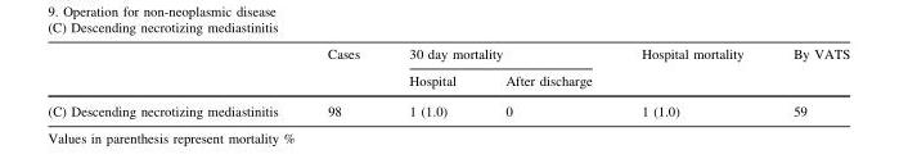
<table><thead><tr><td rowspan="2"></td><td rowspan="2">Cases</td><td colspan="2">30 day mortality</td><td rowspan="2">Hospital mortality</td><td rowspan="2">By VATS</td></tr><tr><td>Hospital</td><td>After discharge</td></tr></thead><tbody><tr><td>(C) Descending necrotizing mediastinitis</td><td>98</td><td>1 (1.0)</td><td>0</td><td>1 (1.0)</td><td>59</td></tr></tbody></table>